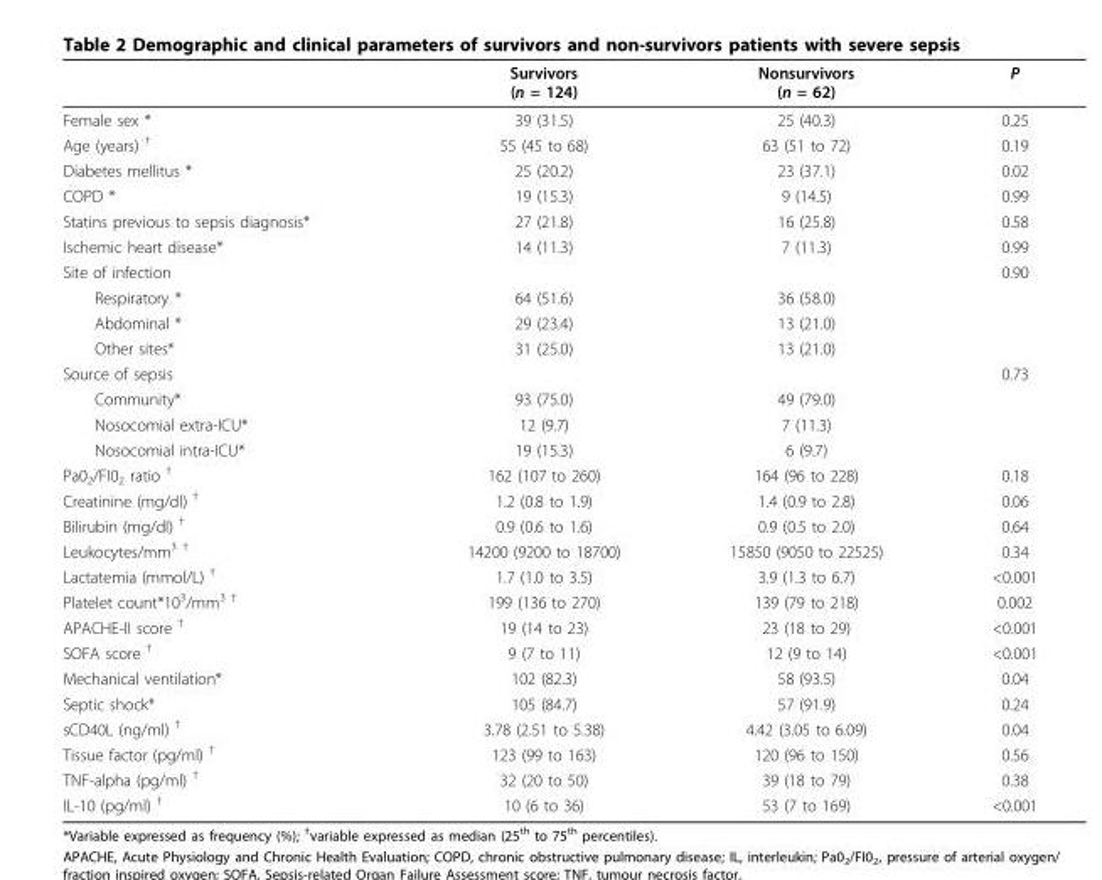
<table><thead><tr><td></td><td>Survivors (n = 124)</td><td>Nonsurvivors (n = 62)</td><td>P</td></tr></thead><tbody><tr><td>Female sex *</td><td>39 (31.5)</td><td>25 (40.3)</td><td>0.25</td></tr><tr><td>Age (years) <sup>†</sup></td><td>55 (45 to 68)</td><td>63 (51 to 72)</td><td>0.19</td></tr><tr><td>Diabetes mellitus *</td><td>25 (20.2)</td><td>23 (37.1)</td><td>0.02</td></tr><tr><td>COPD *</td><td>19 (15.3)</td><td>9 (14.5)</td><td>0.99</td></tr><tr><td>Statins previous to sepsis diagnosis*</td><td>27 (21.8)</td><td>16 (25.8)</td><td>0.58</td></tr><tr><td>Ischemic heart disease*</td><td>14 (11.3)</td><td>7 (11.3)</td><td>0.99</td></tr><tr><td>Site of infection</td><td></td><td></td><td>0.90</td></tr><tr><td>Respiratory *</td><td>64 (51.6)</td><td>36 (58.0)</td><td></td></tr><tr><td>Abdominal *</td><td>29 (23.4)</td><td>13 (21.0)</td><td></td></tr><tr><td>Other sites*</td><td>31 (25.0)</td><td>13 (21.0)</td><td></td></tr><tr><td>Source of sepsis</td><td></td><td></td><td>0.73</td></tr><tr><td>Community*</td><td>93 (75.0)</td><td>49 (79.0)</td><td></td></tr><tr><td>Nosocomial extra-ICU*</td><td>12 (9.7)</td><td>7 (11.3)</td><td></td></tr><tr><td>Nosocomial intra-ICU*</td><td>19 (15.3)</td><td>6 (9.7)</td><td></td></tr><tr><td>Pa0<sub>2</sub>/FI0<sub>2</sub> ratio <sup>†</sup></td><td>162 (107 to 260)</td><td>164 (96 to 228)</td><td>0.18</td></tr><tr><td>Creatinine (mg/dl) <sup>†</sup></td><td>1.2 (0.8 to 1.9)</td><td>1.4 (0.9 to 2.8)</td><td>0.06</td></tr><tr><td>Bilirubin (mg/dl) <sup>†</sup></td><td>0.9 (0.6 to 1.6)</td><td>0.9 (0.5 to 2.0)</td><td>0.64</td></tr><tr><td>Leukocytes/mm<sup>3 †</sup></td><td>14200 (9200 to 18700)</td><td>15850 (9050 to 22525)</td><td>0.34</td></tr><tr><td>Lactatemia (mmol/L) <sup>†</sup></td><td>1.7 (1.0 to 3.5)</td><td>3.9 (1.3 to 6.7)</td><td>&lt;0.001</td></tr><tr><td>Platelet count*10<sup>3</sup>/mm<sup>3 †</sup></td><td>199 (136 to 270)</td><td>139 (79 to 218)</td><td>0.002</td></tr><tr><td>APACHE-II score <sup>†</sup></td><td>19 (14 to 23)</td><td>23 (18 to 29)</td><td>&lt;0.001</td></tr><tr><td>SOFA score <sup>†</sup></td><td>9 (7 to 11)</td><td>12 (9 to 14)</td><td>&lt;0.001</td></tr><tr><td>Mechanical ventilation*</td><td>102 (82.3)</td><td>58 (93.5)</td><td>0.04</td></tr><tr><td>Septic shock*</td><td>105 (84.7)</td><td>57 (91.9)</td><td>0.24</td></tr><tr><td>sCD40L (ng/ml) <sup>†</sup></td><td>3.78 (2.51 to 5.38)</td><td>4.42 (3.05 to 6.09)</td><td>0.04</td></tr><tr><td>Tissue factor (pg/ml) <sup>†</sup></td><td>123 (99 to 163)</td><td>120 (96 to 150)</td><td>0.56</td></tr><tr><td>TNF-alpha (pg/ml) <sup>†</sup></td><td>32 (20 to 50)</td><td>39 (18 to 79)</td><td>0.38</td></tr><tr><td>IL-10 (pg/ml) <sup>†</sup></td><td>10 (6 to 36)</td><td>53 (7 to 169)</td><td>&lt;0.001</td></tr></tbody></table>